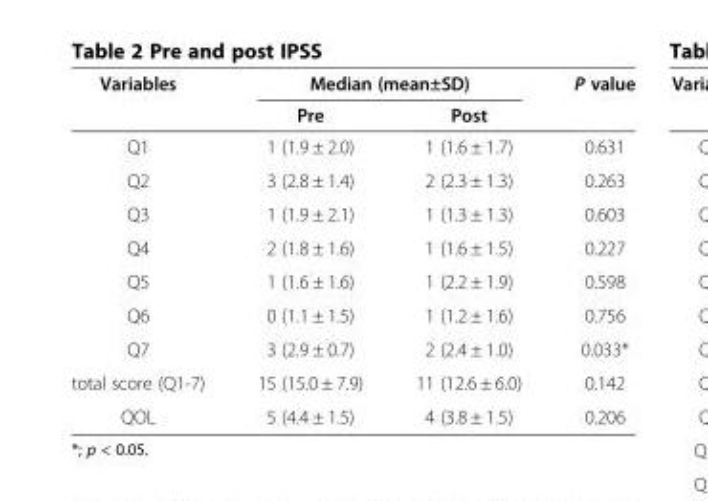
<table><thead><tr><td rowspan="2">Variables</td><td colspan="2">Median (mean±SD)</td><td rowspan="2">P value</td></tr><tr><td>Pre</td><td>Post</td></tr></thead><tbody><tr><td>Q1</td><td>1 (1.9 ± 2.0)</td><td>1 (1.6 ± 1.7)</td><td>0.631</td></tr><tr><td>Q2</td><td>3 (2.8 ± 1.4)</td><td>2 (2.3 ± 1.3)</td><td>0.263</td></tr><tr><td>Q3</td><td>1 (1.9 ± 2.1)</td><td>1 (1.3 ± 1.3)</td><td>0.603</td></tr><tr><td>Q4</td><td>2 (1.8 ± 1.6)</td><td>1 (1.6 ± 1.5)</td><td>0.227</td></tr><tr><td>Q5</td><td>1 (1.6 ± 1.6)</td><td>1 (2.2 ± 1.9)</td><td>0.598</td></tr><tr><td>Q6</td><td>0 (1.1 ± 1.5)</td><td>1 (1.2 ± 1.6)</td><td>0.756</td></tr><tr><td>Q7</td><td>3 (2.9 ± 0.7)</td><td>2 (2.4 ± 1.0)</td><td>0.033*</td></tr><tr><td>total score (Q1-7)</td><td>15 (15.0 ± 7.9)</td><td>11 (12.6 ± 6.0)</td><td>0.142</td></tr><tr><td>QOL</td><td>5 (4.4 ± 1.5)</td><td>4 (3.8 ± 1.5)</td><td>0.206</td></tr></tbody></table>